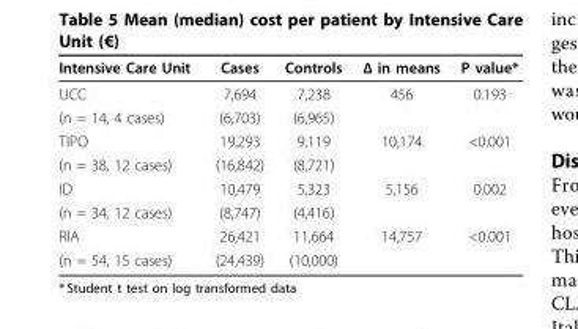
<table><thead><tr><td>Intensive Care Unit</td><td>Cases</td><td>Controls</td><td>Δ in means</td><td>P value*</td></tr></thead><tbody><tr><td>UCC</td><td>7,694</td><td>7,238</td><td>456</td><td>0.193</td></tr><tr><td>(n = 14, 4 cases)</td><td>(6,703)</td><td>(6,965)</td><td></td><td></td></tr><tr><td>TIPO</td><td>19,293</td><td>9,119</td><td>10,174</td><td>&lt;0.001</td></tr><tr><td>(n = 38, 12 cases)</td><td>(16,842)</td><td>(8,721)</td><td></td><td></td></tr><tr><td>ID</td><td>10,479</td><td>5,323</td><td>5,156</td><td>0.002</td></tr><tr><td>(n = 34, 12 cases)</td><td>(8,747)</td><td>(4,416)</td><td></td><td></td></tr><tr><td>RIA</td><td>26,421</td><td>11,664</td><td>14,757</td><td>&lt;0.001</td></tr><tr><td>(n = 54, 15 cases)</td><td>(24,439)</td><td>(10,000)</td><td></td><td></td></tr></tbody></table>